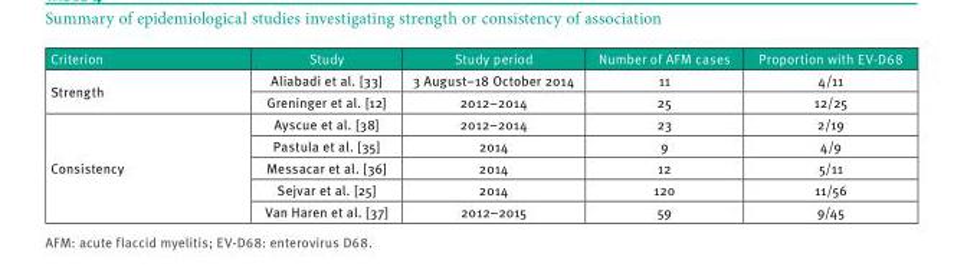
<table><thead><tr><td>Criterion</td><td>Study</td><td>Study period</td><td>Number of AFM cases</td><td>Proportion with EV-D68</td></tr></thead><tbody><tr><td rowspan="2">Strength</td><td>Aliabadi et al. [33]</td><td>3 August–18 October 2014</td><td>11</td><td>4/11</td></tr><tr><td>Greninger et al. [12]</td><td>2012–2014</td><td>25</td><td>12/25</td></tr><tr><td rowspan="5">Consistency</td><td>Ayscue et al. [38]</td><td>2012–2014</td><td>23</td><td>2/19</td></tr><tr><td>Pastula et al. [35]</td><td>2014</td><td>9</td><td>4/9</td></tr><tr><td>Messacar et al. [36]</td><td>2014</td><td>12</td><td>5/11</td></tr><tr><td>Sejvar et al. [25]</td><td>2014</td><td>120</td><td>11/56</td></tr><tr><td>Van Haren et al. [37]</td><td>2012–2015</td><td>59</td><td>9/45</td></tr></tbody></table>